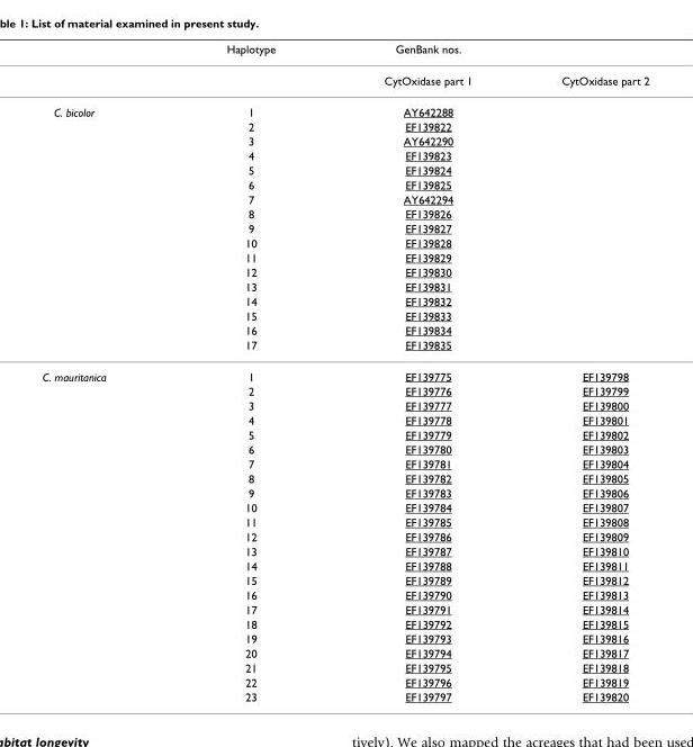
<table><thead><tr><td></td><td>Haplotype</td><td>GenBank nos.</td><td></td></tr></thead><tbody><tr><td></td><td></td><td>CytOxidase part 1</td><td>CytOxidase part 2</td></tr><tr><td rowspan="17">C. bicolor</td><td>1</td><td>AY642288</td><td></td></tr><tr><td>2</td><td>EF139822</td><td></td></tr><tr><td>3</td><td>AY642290</td><td></td></tr><tr><td>4</td><td>EF139823</td><td></td></tr><tr><td>5</td><td>EF139824</td><td></td></tr><tr><td>6</td><td>EF139825</td><td></td></tr><tr><td>7</td><td>AY642294</td><td></td></tr><tr><td>8</td><td>EF139826</td><td></td></tr><tr><td>9</td><td>EF139827</td><td></td></tr><tr><td>10</td><td>EF139828</td><td></td></tr><tr><td>11</td><td>EF139829</td><td></td></tr><tr><td>12</td><td>EF139830</td><td></td></tr><tr><td>13</td><td>EF139831</td><td></td></tr><tr><td>14</td><td>EF139832</td><td></td></tr><tr><td>15</td><td>EF139833</td><td></td></tr><tr><td>16</td><td>EF139834</td><td></td></tr><tr><td>17</td><td>EF139835</td><td></td></tr><tr><td rowspan="23">C. mauritanica</td><td>1</td><td>EF139775</td><td>EF139798</td></tr><tr><td>2</td><td>EF139776</td><td>EF139799</td></tr><tr><td>3</td><td>EF139777</td><td>EF139800</td></tr><tr><td>4</td><td>EF139778</td><td>EF139801</td></tr><tr><td>5</td><td>EF139779</td><td>EF139802</td></tr><tr><td>6</td><td>EF139780</td><td>EF139803</td></tr><tr><td>7</td><td>EF139781</td><td>EF139804</td></tr><tr><td>8</td><td>EF139782</td><td>EF139805</td></tr><tr><td>9</td><td>EF139783</td><td>EF139806</td></tr><tr><td>10</td><td>EF139784</td><td>EF139807</td></tr><tr><td>11</td><td>EF139785</td><td>EF139808</td></tr><tr><td>12</td><td>EF139786</td><td>EF139809</td></tr><tr><td>13</td><td>EF139787</td><td>EF139810</td></tr><tr><td>14</td><td>EF139788</td><td>EF139811</td></tr><tr><td>15</td><td>EF139789</td><td>EF139812</td></tr><tr><td>16</td><td>EF139790</td><td>EF139813</td></tr><tr><td>17</td><td>EF139791</td><td>EF139814</td></tr><tr><td>18</td><td>EF139792</td><td>EF139815</td></tr><tr><td>19</td><td>EF139793</td><td>EF139816</td></tr><tr><td>20</td><td>EF139794</td><td>EF139817</td></tr><tr><td>21</td><td>EF139795</td><td>EF139818</td></tr><tr><td>22</td><td>EF139796</td><td>EF139819</td></tr><tr><td>23</td><td>EF139797</td><td>EF139820</td></tr></tbody></table>